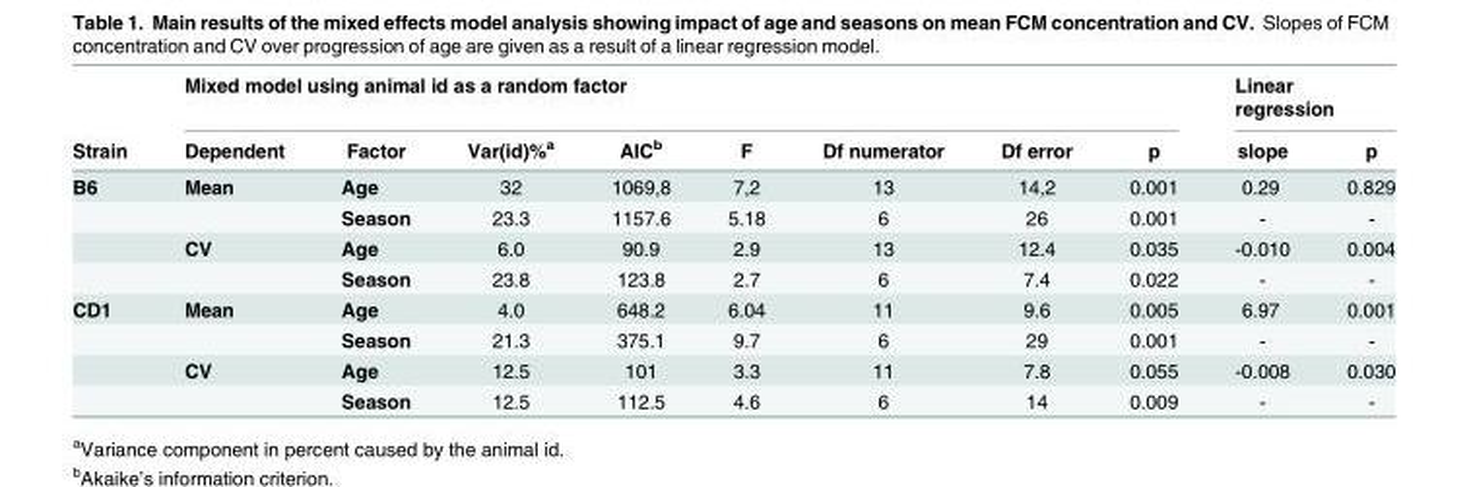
<table><thead><tr><td rowspan="2">Strain</td><td colspan="8">Mixed model using animal id as a random factor</td><td colspan="2">Linear regression</td></tr><tr><td>Dependent</td><td>Factor</td><td>Var(id)%<sup>a</sup></td><td>AIC<sup>b</sup></td><td>F</td><td>Df numerator</td><td>Df error</td><td>p</td><td>slope</td><td>p</td></tr></thead><tbody><tr><td rowspan="4">B6</td><td>Mean</td><td>Age</td><td>32</td><td>1069,8</td><td>7,2</td><td>13</td><td>14,2</td><td>0.001</td><td>0.29</td><td>0.829</td></tr><tr><td></td><td>Season</td><td>23.3</td><td>1157.6</td><td>5.18</td><td>6</td><td>26</td><td>0.001</td><td>-</td><td>-</td></tr><tr><td>CV</td><td>Age</td><td>6.0</td><td>90.9</td><td>2.9</td><td>13</td><td>12.4</td><td>0.035</td><td>-0.010</td><td>0.004</td></tr><tr><td></td><td>Season</td><td>23.8</td><td>123.8</td><td>2.7</td><td>6</td><td>7.4</td><td>0.022</td><td>-</td><td>-</td></tr><tr><td rowspan="4">CD1</td><td>Mean</td><td>Age</td><td>4.0</td><td>648.2</td><td>6.04</td><td>11</td><td>9.6</td><td>0.005</td><td>6.97</td><td>0.001</td></tr><tr><td></td><td>Season</td><td>21.3</td><td>375.1</td><td>9.7</td><td>6</td><td>29</td><td>0.001</td><td>-</td><td>-</td></tr><tr><td>CV</td><td>Age</td><td>12.5</td><td>101</td><td>3.3</td><td>11</td><td>7.8</td><td>0.055</td><td>-0.008</td><td>0.030</td></tr><tr><td></td><td>Season</td><td>12.5</td><td>112.5</td><td>4.6</td><td>6</td><td>14</td><td>0.009</td><td>-</td><td>-</td></tr></tbody></table>